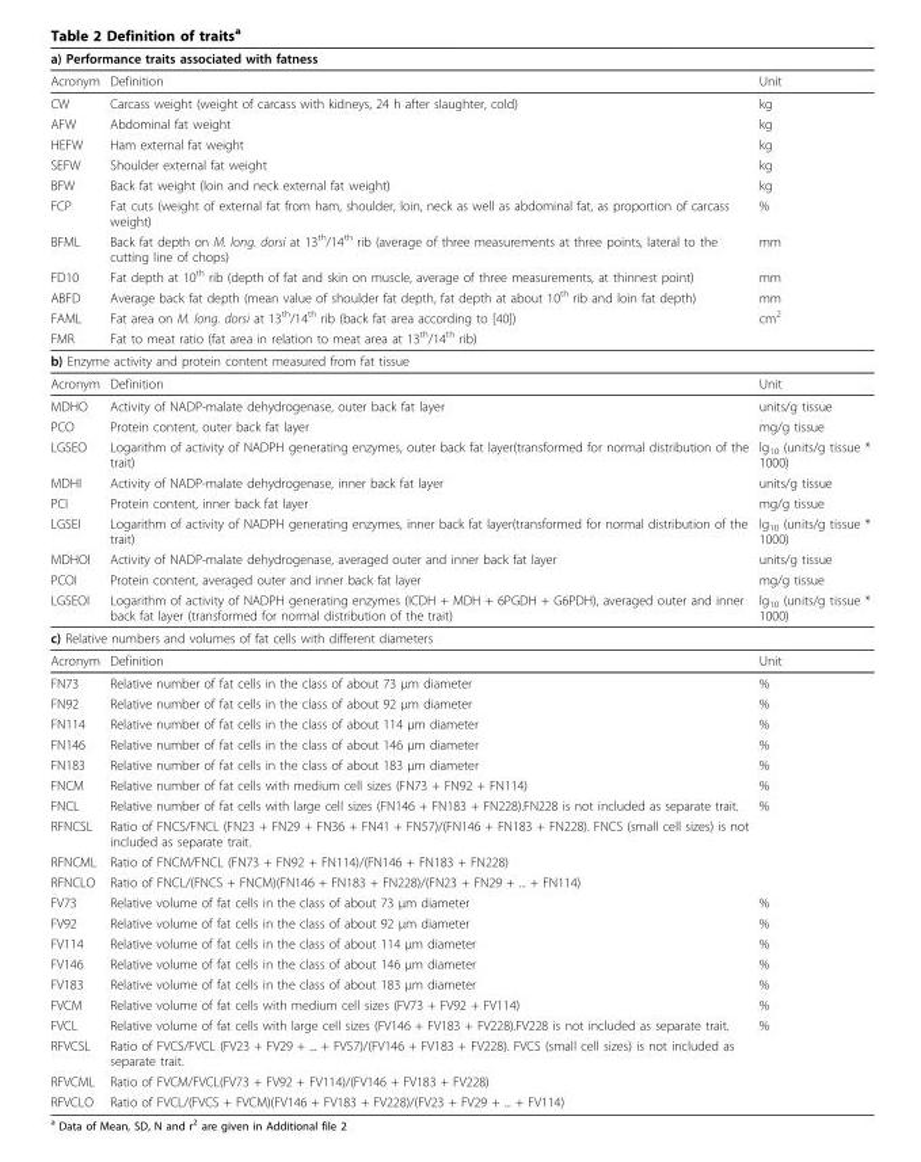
<table><thead><tr><td colspan="3">a) Performance traits associated with fatness</td></tr><tr><td>Acronym</td><td>Definition</td><td>Unit</td></tr></thead><tbody><tr><td>CW</td><td>Carcass weight (weight of carcass with kidneys, 24 h after slaughter, cold)</td><td>kg</td></tr><tr><td>AFW</td><td>Abdominal fat weight</td><td>kg</td></tr><tr><td>HEFW</td><td>Ham external fat weight</td><td>kg</td></tr><tr><td>SEFW</td><td>Shoulder external fat weight</td><td>kg</td></tr><tr><td>BFW</td><td>Back fat weight (loin and neck external fat weight)</td><td>kg</td></tr><tr><td>FCP</td><td>Fat cuts (weight of external fat from ham, shoulder, loin, neck as well as abdominal fat, as proportion of carcass weight)</td><td>%</td></tr><tr><td>BFML</td><td>Back fat depth on M. long. dorsi at 13<sup>th</sup>/14<sup>th</sup> rib (average of three measurements at three points, lateral to the cutting line of chops)</td><td>mm</td></tr><tr><td>FD10</td><td>Fat depth at 10<sup>th</sup> rib (depth of fat and skin on muscle, average of three measurements, at thinnest point)</td><td>mm</td></tr><tr><td>ABFD</td><td>Average back fat depth (mean value of shoulder fat depth, fat depth at about 10<sup>th</sup> rib and loin fat depth)</td><td>mm</td></tr><tr><td>FAML</td><td>Fat area on M. long. dorsi at 13<sup>th</sup>/14<sup>th</sup> rib (back fat area according to [40])</td><td>cm<sup>2</sup></td></tr><tr><td>FMR</td><td>Fat to meat ratio (fat area in relation to meat area at 13<sup>th</sup>/14<sup>th</sup> rib)</td><td></td></tr><tr><td colspan="3">b) Enzyme activity and protein content measured from fat tissue</td></tr><tr><td>Acronym</td><td>Definition</td><td>Unit</td></tr><tr><td>MDHO</td><td>Activity of NADP-malate dehydrogenase, outer back fat layer</td><td>units/g tissue</td></tr><tr><td>PCO</td><td>Protein content, outer back fat layer</td><td>mg/g tissue</td></tr><tr><td>LGSEO</td><td>Logarithm of activity of NADPH generating enzymes, outer back fat layer(transformed for normal distribution of the trait)</td><td>lg<sub>10</sub> (units/g tissue * 1000)</td></tr><tr><td>MDHI</td><td>Activity of NADP-malate dehydrogenase, inner back fat layer</td><td>units/g tissue</td></tr><tr><td>PCI</td><td>Protein content, inner back fat layer</td><td>mg/g tissue</td></tr><tr><td>LGSEI</td><td>Logarithm of activity of NADPH generating enzymes, inner back fat layer(transformed for normal distribution of the trait)</td><td>lg<sub>10</sub> (units/g tissue * 1000)</td></tr><tr><td>MDHOI</td><td>Activity of NADP-malate dehydrogenase, averaged outer and inner back fat layer</td><td>units/g tissue</td></tr><tr><td>PCOI</td><td>Protein content, averaged outer and inner back fat layer</td><td>mg/g tissue</td></tr><tr><td>LGSEOI</td><td>Logarithm of activity of NADPH generating enzymes (ICDH + MDH + 6PGDH + G6PDH), averaged outer and inner back fat layer (transformed for normal distribution of the trait)</td><td>lg<sub>10</sub> (units/g tissue * 1000)</td></tr><tr><td colspan="3">c) Relative numbers and volumes of fat cells with different diameters</td></tr><tr><td>Acronym</td><td>Definition</td><td>Unit</td></tr><tr><td>FN73</td><td>Relative number of fat cells in the class of about 73 μm diameter</td><td>%</td></tr><tr><td>FN92</td><td>Relative number of fat cells in the class of about 92 μm diameter</td><td>%</td></tr><tr><td>FN114</td><td>Relative number of fat cells in the class of about 114 μm diameter</td><td>%</td></tr><tr><td>FN146</td><td>Relative number of fat cells in the class of about 146 μm diameter</td><td>%</td></tr><tr><td>FN183</td><td>Relative number of fat cells in the class of about 183 μm diameter</td><td>%</td></tr><tr><td>FNCM</td><td>Relative number of fat cells with medium cell sizes (FN73 + FN92 + FN114)</td><td>%</td></tr><tr><td>FNCL</td><td>Relative number of fat cells with large cell sizes (FN146 + FN183 + FN228).FN228 is not included as separate trait.</td><td>%</td></tr><tr><td>RFNCSL</td><td>Ratio of FNCS/FNCL (FN23 + FN29 + FN36 + FN41 + FN57)/(FN146 + FN183 + FN228). FNCS (small cell sizes) is not included as separate trait.</td><td></td></tr><tr><td>RFNCML</td><td>Ratio of FNCM/FNCL (FN73 + FN92 + FN114)/(FN146 + FN183 + FN228)</td><td></td></tr><tr><td>RFNCLO</td><td>Ratio of FNCL/(FNCS + FNCM)(FN146 + FN183 + FN228)/(FN23 + FN29 + ... + FN114)</td><td></td></tr><tr><td>FV73</td><td>Relative volume of fat cells in the class of about 73 μm diameter</td><td>%</td></tr><tr><td>FV92</td><td>Relative volume of fat cells in the class of about 92 μm diameter</td><td>%</td></tr><tr><td>FV114</td><td>Relative volume of fat cells in the class of about 114 μm diameter</td><td>%</td></tr><tr><td>FV146</td><td>Relative volume of fat cells in the class of about 146 μm diameter</td><td>%</td></tr><tr><td>FV183</td><td>Relative volume of fat cells in the class of about 183 μm diameter</td><td>%</td></tr><tr><td>FVCM</td><td>Relative volume of fat cells with medium cell sizes (FV73 + FV92 + FV114)</td><td>%</td></tr><tr><td>FVCL</td><td>Relative volume of fat cells with large cell sizes (FV146 + FV183 + FV228).FV228 is not included as separate trait.</td><td>%</td></tr><tr><td>RFVCSL</td><td>Ratio of FVCS/FVCL (FV23 + FV29 + ... + FV57)/(FV146 + FV183 + FV228). FVCS (small cell sizes) is not included as separate trait.</td><td></td></tr><tr><td>RFVCML</td><td>Ratio of FVCM/FVCL(FV73 + FV92 + FV114)/(FV146 + FV183 + FV228)</td><td></td></tr><tr><td>RFVCLO</td><td>Ratio of FVCL/(FVCS + FVCM)(FV146 + FV183 + FV228)/(FV23 + FV29 + ... + FV114)</td><td></td></tr></tbody></table>